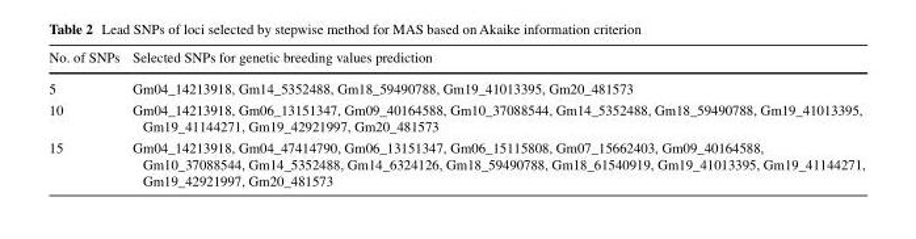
<table><thead><tr><td>No. of SNPs</td><td>Selected SNPs for genetic breeding values prediction</td></tr></thead><tbody><tr><td>5</td><td>Gm04_14213918, Gm14_5352488, Gm18_59490788, Gm19_41013395, Gm20_481573</td></tr><tr><td>10</td><td>Gm04_14213918, Gm06_13151347, Gm09_40164588, Gm10_37088544, Gm14_5352488, Gm18_59490788, Gm19_41013395, Gm19_41144271, Gm19_42921997, Gm20_481573</td></tr><tr><td>15</td><td>Gm04_14213918, Gm04_47414790, Gm06_13151347, Gm06_15115808, Gm07_15662403, Gm09_40164588, Gm10_37088544, Gm14_5352488, Gm14_6324126, Gm18_59490788, Gm18_61540919, Gm19_41013395, Gm19_41144271, Gm19_42921997, Gm20_481573</td></tr></tbody></table>